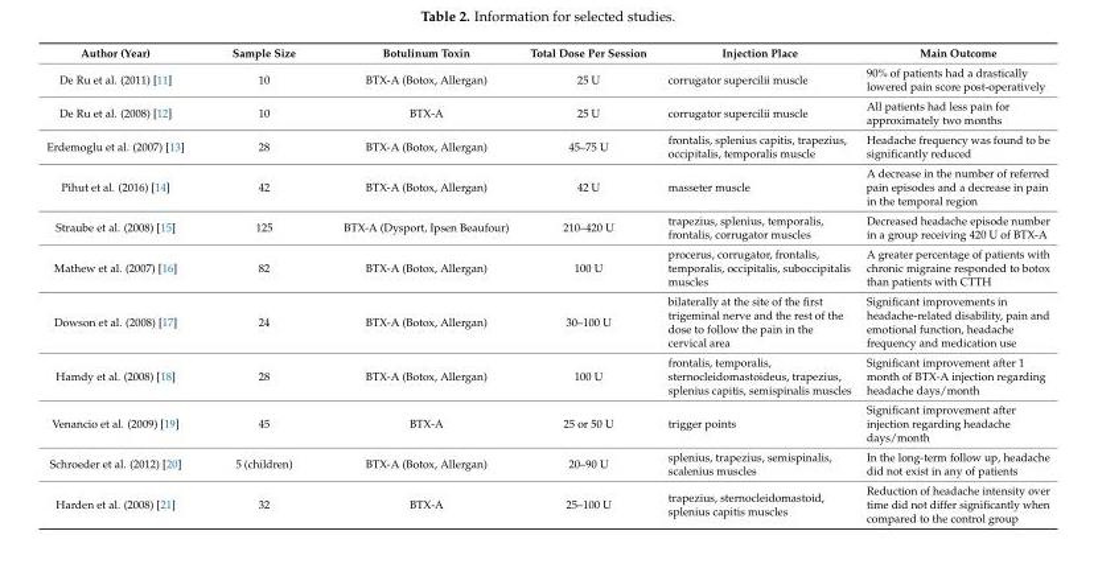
<table><thead><tr><td>Author (Year)</td><td>Sample Size</td><td>Botulinum Toxin</td><td>Total Dose Per Session</td><td>Injection Place</td><td>Main Outcome</td></tr></thead><tbody><tr><td>De Ru et al. (2011) [11]</td><td>10</td><td>BTX-A (Botox, Allergan)</td><td>25 U</td><td>corrugator supercilii muscle</td><td>90% of patients had a drastically lowered pain score post-operatively</td></tr><tr><td>De Ru et al. (2008) [12]</td><td>10</td><td>BTX-A</td><td>25 U</td><td>corrugator supercilii muscle</td><td>All patients had less pain for approximately two months</td></tr><tr><td>Erdemoglu et al. (2007) [13]</td><td>28</td><td>BTX-A (Botox, Allergan)</td><td>45–75 U</td><td>frontalis, splenius capitis, trapezius, occipitalis, temporalis muscle</td><td>Headache frequency was found to be significantly reduced</td></tr><tr><td>Pihut et al. (2016) [14]</td><td>42</td><td>BTX-A (Botox, Allergan)</td><td>42 U</td><td>masseter muscle</td><td>A decrease in the number of referred pain episodes and a decrease in pain in the temporal region</td></tr><tr><td>Straube et al. (2008) [15]</td><td>125</td><td>BTX-A (Dysport, Ipsen Beaufour)</td><td>210–420 U</td><td>trapezius, splenius, temporalis, frontalis, corrugator muscles</td><td>Decreased headache episode number in a group receiving 420 U of BTX-A</td></tr><tr><td>Mathew et al. (2007) [16]</td><td>82</td><td>BTX-A (Botox, Allergan)</td><td>100 U</td><td>procerus, corrugator, frontalis, temporalis, occipitalis, suboccipitalis muscles</td><td>A greater percentage of patients with chronic migraine responded to botox than patients with CTTH</td></tr><tr><td>Dowson et al. (2008) [17]</td><td>24</td><td>BTX-A (Botox, Allergan)</td><td>30–100 U</td><td>bilaterally at the site of the first trigeminal nerve and the rest of the dose to follow the pain in the cervical area</td><td>Significant improvements in headache-related disability, pain and emotional function, headache frequency and medication use</td></tr><tr><td>Hamdy et al. (2008) [18]</td><td>28</td><td>BTX-A (Botox, Allergan)</td><td>100 U</td><td>frontalis, temporalis, sternocleidomastoideus, trapezius, splenius capitis, semispinalis muscles</td><td>Significant improvement after 1 month of BTX-A injection regarding headache days/month</td></tr><tr><td>Venancio et al. (2009) [19]</td><td>45</td><td>BTX-A</td><td>25 or 50 U</td><td>trigger points</td><td>Significant improvement after injection regarding headache days/month</td></tr><tr><td>Schroeder et al. (2012) [20]</td><td>5 (children)</td><td>BTX-A (Botox, Allergan)</td><td>20–90 U</td><td>splenius, trapezius, semispinalis, scalenius muscles</td><td>In the long-term follow up, headache did not exist in any of patients</td></tr><tr><td>Harden et al. (2008) [21]</td><td>32</td><td>BTX-A</td><td>25–100 U</td><td>trapezius, sternocleidomastoid, splenius capitis muscles</td><td>Reduction of headache intensity over time did not differ significantly when compared to the control group</td></tr></tbody></table>